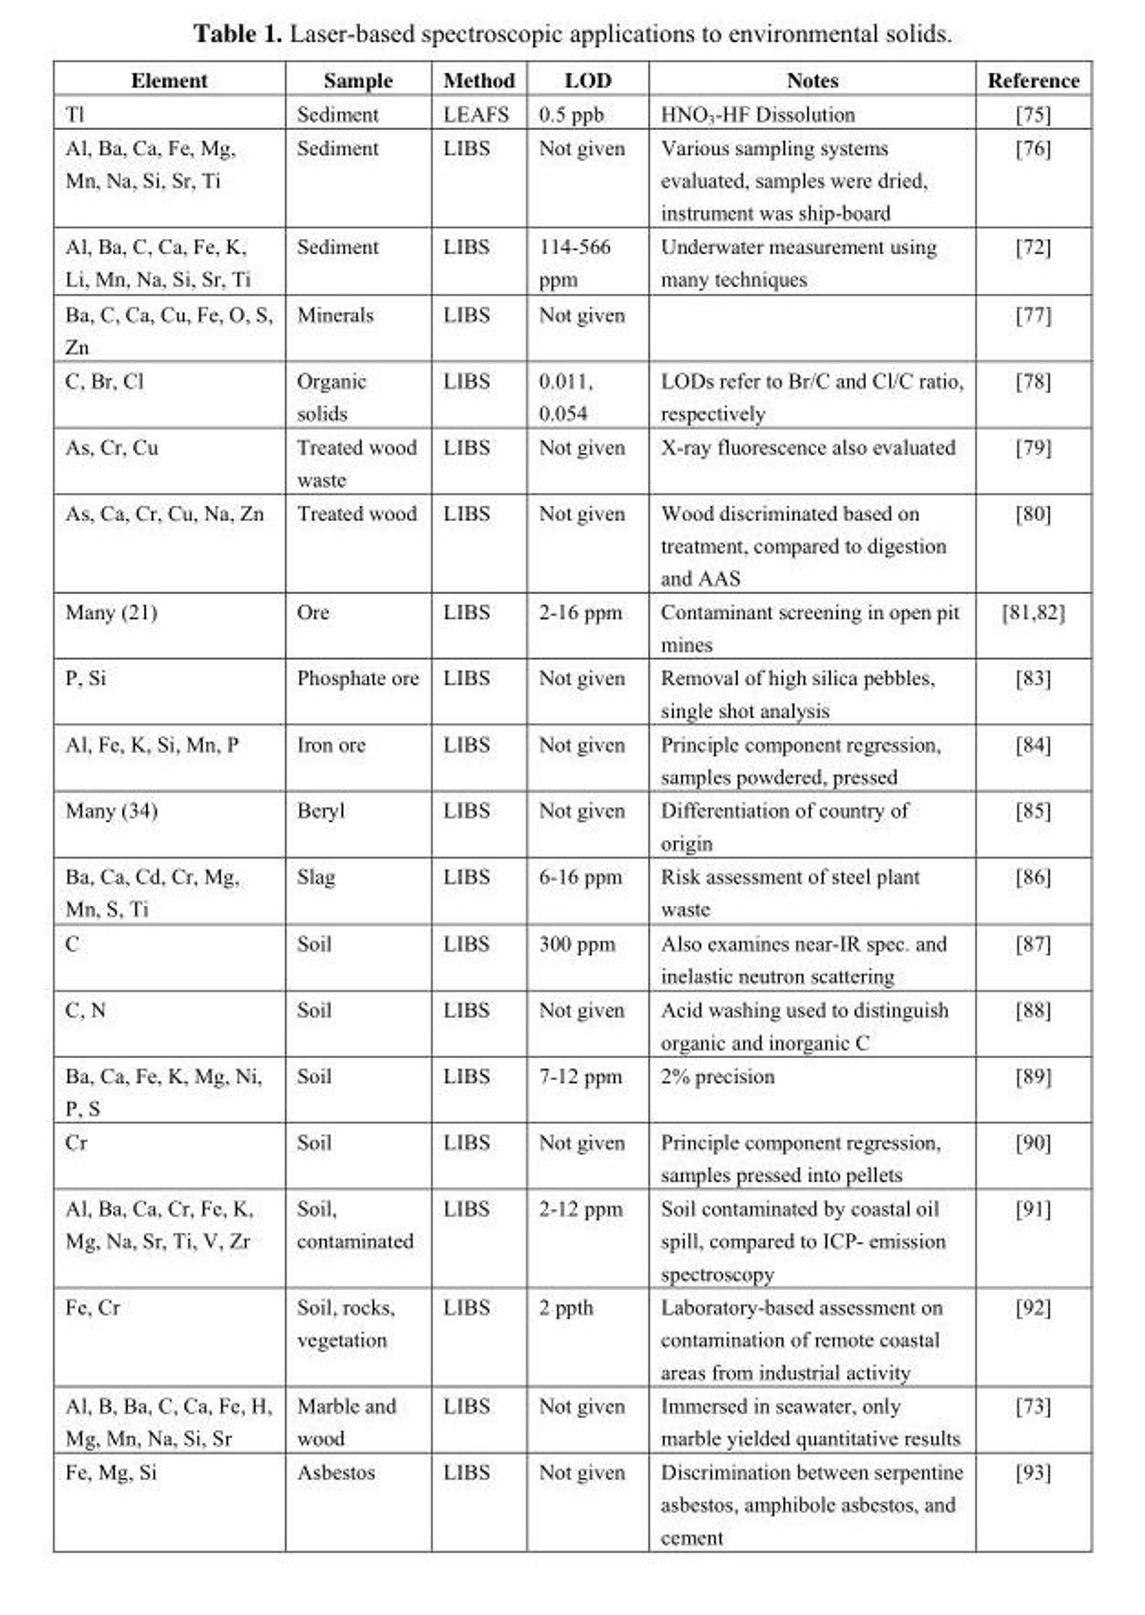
<table><thead><tr><td>Element</td><td>Sample</td><td>Method</td><td>LOD</td><td>Notes</td><td>Reference</td></tr></thead><tbody><tr><td>Tl</td><td>Sediment</td><td>LEAFS</td><td>0.5 ppb</td><td>HNO<sub>3</sub>-HF Dissolution</td><td>[75]</td></tr><tr><td>Al, Ba, Ca, Fe, Mg, Mn, Na, Si, Sr, Ti</td><td>Sediment</td><td>LIBS</td><td>Not given</td><td>Various sampling systems evaluated, samples were dried, instrument was ship-board</td><td>[76]</td></tr><tr><td>Al, Ba, C, Ca, Fe, K, Li, Mn, Na, Si, Sr, Ti</td><td>Sediment</td><td>LIBS</td><td>114-566 ppm</td><td>Underwater measurement using many techniques</td><td>[72]</td></tr><tr><td>Ba, C, Ca, Cu, Fe, O, S, Zn</td><td>Minerals</td><td>LIBS</td><td>Not given</td><td></td><td>[77]</td></tr><tr><td>C, Br, Cl</td><td>Organic solids</td><td>LIBS</td><td>0.011, 0.054</td><td>LODs refer to Br/C and Cl/C ratio, respectively</td><td>[78]</td></tr><tr><td>As, Cr, Cu</td><td>Treated wood waste</td><td>LIBS</td><td>Not given</td><td>X-ray fluorescence also evaluated</td><td>[79]</td></tr><tr><td>As, Ca, Cr, Cu, Na, Zn</td><td>Treated wood</td><td>LIBS</td><td>Not given</td><td>Wood discriminated based on treatment, compared to digestion and AAS</td><td>[80]</td></tr><tr><td>Many (21)</td><td>Ore</td><td>LIBS</td><td>2-16 ppm</td><td>Contaminant screening in open pit mines</td><td>[81,82]</td></tr><tr><td>P, Si</td><td>Phosphate ore</td><td>LIBS</td><td>Not given</td><td>Removal of high silica pebbles, single shot analysis</td><td>[83]</td></tr><tr><td>Al, Fe, K, Si, Mn, P</td><td>Iron ore</td><td>LIBS</td><td>Not given</td><td>Principle component regression, samples powdered, pressed</td><td>[84]</td></tr><tr><td>Many (34)</td><td>Beryl</td><td>LIBS</td><td>Not given</td><td>Differentiation of country of origin</td><td>[85]</td></tr><tr><td>Ba, Ca, Cd, Cr, Mg, Mn, S, Ti</td><td>Slag</td><td>LIBS</td><td>6-16 ppm</td><td>Risk assessment of steel plant waste</td><td>[86]</td></tr><tr><td>C</td><td>Soil</td><td>LIBS</td><td>300 ppm</td><td>Also examines near-IR spec. and inelastic neutron scattering</td><td>[87]</td></tr><tr><td>C, N</td><td>Soil</td><td>LIBS</td><td>Not given</td><td>Acid washing used to distinguish organic and inorganic C</td><td>[88]</td></tr><tr><td>Ba, Ca, Fe, K, Mg, Ni, P, S</td><td>Soil</td><td>LIBS</td><td>7-12 ppm</td><td>2% precision</td><td>[89]</td></tr><tr><td>Cr</td><td>Soil</td><td>LIBS</td><td>Not given</td><td>Principle component regression, samples pressed into pellets</td><td>[90]</td></tr><tr><td>Al, Ba, Ca, Cr, Fe, K, Mg, Na, Sr, Ti, V, Zr</td><td>Soil, contaminated</td><td>LIBS</td><td>2-12 ppm</td><td>Soil contaminated by coastal oil spill, compared to ICP- emission spectroscopy</td><td>[91]</td></tr><tr><td>Fe, Cr</td><td>Soil, rocks, vegetation</td><td>LIBS</td><td>2 ppth</td><td>Laboratory-based assessment on contamination of remote coastal areas from industrial activity</td><td>[92]</td></tr><tr><td>Al, B, Ba, C, Ca, Fe, H, Mg, Mn, Na, Si, Sr</td><td>Marble and wood</td><td>LIBS</td><td>Not given</td><td>Immersed in seawater, only marble yielded quantitative results</td><td>[73]</td></tr><tr><td>Fe, Mg, Si</td><td>Asbestos</td><td>LIBS</td><td>Not given</td><td>Discrimination between serpentine asbestos, amphibole asbestos, and cement</td><td>[93]</td></tr></tbody></table>